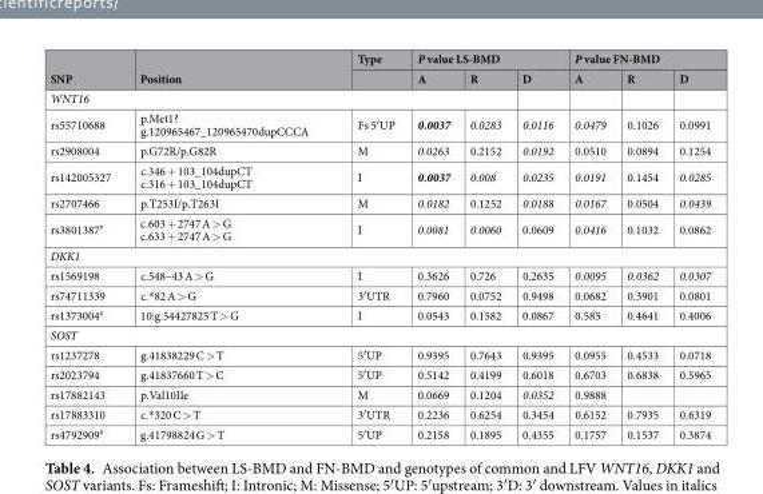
<table><thead><tr><td rowspan="2">SNP</td><td rowspan="2">Position</td><td rowspan="2">Type</td><td colspan="3">P value LS-BMD</td><td colspan="3">P value FN-BMD</td></tr><tr><td>A</td><td>R</td><td>D</td><td>A</td><td>R</td><td>D</td></tr></thead><tbody><tr><td colspan="9">WNT16</td></tr><tr><td>rs55710688</td><td>p.Met1? g.120965467_120965470dupCCCA</td><td>Fs 5′UP</td><td>0.0037</td><td>0.0283</td><td>0.0116</td><td>0.0479</td><td>0.1026</td><td>0.0991</td></tr><tr><td>rs2908004</td><td>p.G72R/p.G82R</td><td>M</td><td>0.0263</td><td>0.2152</td><td>0.0192</td><td>0.0510</td><td>0.0894</td><td>0.1254</td></tr><tr><td>rs142005327</td><td>c.346 + 103_104dupCT c.316 + 103_104dupCT</td><td>I</td><td>0.0037</td><td>0.008</td><td>0.0235</td><td>0.0191</td><td>0.1454</td><td>0.0285</td></tr><tr><td>rs2707466</td><td>p.T253I/p.T263I</td><td>M</td><td>0.0182</td><td>0.1252</td><td>0.0188</td><td>0.0167</td><td>0.0504</td><td>0.0439</td></tr><tr><td>rs3801387<sup>#</sup></td><td>c.603 + 2747 A &gt; G c.633 + 2747 A &gt; G</td><td>I</td><td>0.0081</td><td>0.0060</td><td>0.0609</td><td>0.0416</td><td>0.1032</td><td>0.0862</td></tr><tr><td colspan="9">DKK1</td></tr><tr><td>rs1569198</td><td>c.548–43 A &gt; G</td><td>I</td><td>0.3626</td><td>0.726</td><td>0.2635</td><td>0.0095</td><td>0.0362</td><td>0.0307</td></tr><tr><td>rs74711339</td><td>c.*82 A &gt; G</td><td>3′UTR</td><td>0.7960</td><td>0.0752</td><td>0.9498</td><td>0.0682</td><td>0.3901</td><td>0.0801</td></tr><tr><td>rs1373004<sup>#</sup></td><td>10:g.54427825 T &gt; G</td><td>I</td><td>0.0543</td><td>0.1582</td><td>0.0867</td><td>0.585</td><td>0.4641</td><td>0.4006</td></tr><tr><td colspan="9">SOST</td></tr><tr><td>rs1237278</td><td>g.41838229 C &gt; T</td><td>5′UP</td><td>0.9395</td><td>0.7643</td><td>0.9395</td><td>0.0955</td><td>0.4533</td><td>0.0718</td></tr><tr><td>rs2023794</td><td>g.41837660 T &gt; C</td><td>5′UP</td><td>0.5142</td><td>0.4199</td><td>0.6018</td><td>0.6703</td><td>0.6838</td><td>0.5965</td></tr><tr><td>rs17882143</td><td>p.Val10Ile</td><td>M</td><td>0.0669</td><td>0.1204</td><td>0.0352</td><td>0.9888</td><td></td><td></td></tr><tr><td>rs17883310</td><td>c.*320 C &gt; T</td><td>3′UTR</td><td>0.2236</td><td>0.6254</td><td>0.3454</td><td>0.6152</td><td>0.7935</td><td>0.6319</td></tr><tr><td>rs4792909<sup>#</sup></td><td>g.41798824 G &gt; T</td><td>5′UP</td><td>0.2158</td><td>0.1895</td><td>0.4355</td><td>0.1757</td><td>0.1537</td><td>0.3874</td></tr></tbody></table>